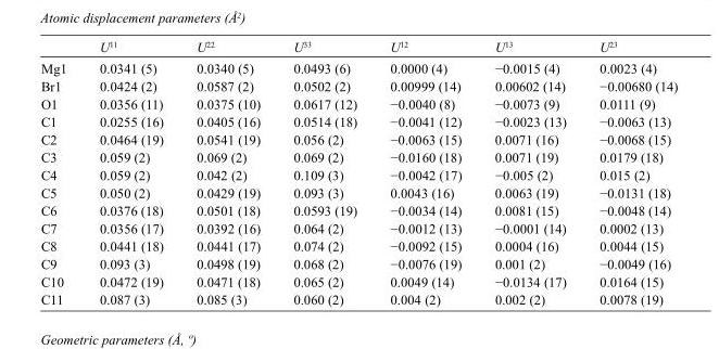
<table><thead><tr><td></td><td>U<sup>11</sup></td><td>U<sup>22</sup></td><td>U<sup>33</sup></td><td>U<sup>12</sup></td><td>U<sup>13</sup></td><td>U<sup>23</sup></td></tr></thead><tbody><tr><td>Mg1</td><td>0.0341 (5)</td><td>0.0340 (5)</td><td>0.0493 (6)</td><td>0.0000 (4)</td><td>−0.0015 (4)</td><td>0.0023 (4)</td></tr><tr><td>Br1</td><td>0.0424 (2)</td><td>0.0587 (2)</td><td>0.0502 (2)</td><td>0.00999 (14)</td><td>0.00602 (14)</td><td>−0.00680 (14)</td></tr><tr><td>O1</td><td>0.0356 (11)</td><td>0.0375 (10)</td><td>0.0617 (12)</td><td>−0.0040 (8)</td><td>−0.0073 (9)</td><td>0.0111 (9)</td></tr><tr><td>C1</td><td>0.0255 (16)</td><td>0.0405 (16)</td><td>0.0514 (18)</td><td>−0.0041 (12)</td><td>−0.0023 (13)</td><td>−0.0063 (13)</td></tr><tr><td>C2</td><td>0.0464 (19)</td><td>0.0541 (19)</td><td>0.056 (2)</td><td>−0.0063 (15)</td><td>0.0071 (16)</td><td>−0.0068 (15)</td></tr><tr><td>C3</td><td>0.059 (2)</td><td>0.069 (2)</td><td>0.069 (2)</td><td>−0.0160 (18)</td><td>0.0071 (19)</td><td>0.0179 (18)</td></tr><tr><td>C4</td><td>0.059 (2)</td><td>0.042 (2)</td><td>0.109 (3)</td><td>−0.0042 (17)</td><td>−0.005 (2)</td><td>0.015 (2)</td></tr><tr><td>C5</td><td>0.050 (2)</td><td>0.0429 (19)</td><td>0.093 (3)</td><td>0.0043 (16)</td><td>0.0063 (19)</td><td>−0.0131 (18)</td></tr><tr><td>C6</td><td>0.0376 (18)</td><td>0.0501 (18)</td><td>0.0593 (19)</td><td>−0.0034 (14)</td><td>0.0081 (15)</td><td>−0.0048 (14)</td></tr><tr><td>C7</td><td>0.0356 (17)</td><td>0.0392 (16)</td><td>0.064 (2)</td><td>−0.0012 (13)</td><td>−0.0001 (14)</td><td>0.0002 (13)</td></tr><tr><td>C8</td><td>0.0441 (18)</td><td>0.0441 (17)</td><td>0.074 (2)</td><td>−0.0092 (15)</td><td>0.0004 (16)</td><td>0.0044 (15)</td></tr><tr><td>C9</td><td>0.093 (3)</td><td>0.0498 (19)</td><td>0.068 (2)</td><td>−0.0076 (19)</td><td>0.001 (2)</td><td>−0.0049 (16)</td></tr><tr><td>C10</td><td>0.0472 (19)</td><td>0.0471 (18)</td><td>0.065 (2)</td><td>0.0049 (14)</td><td>−0.0134 (17)</td><td>0.0164 (15)</td></tr><tr><td>C11</td><td>0.087 (3)</td><td>0.085 (3)</td><td>0.060 (2)</td><td>0.004 (2)</td><td>0.002 (2)</td><td>0.0078 (19)</td></tr></tbody></table>